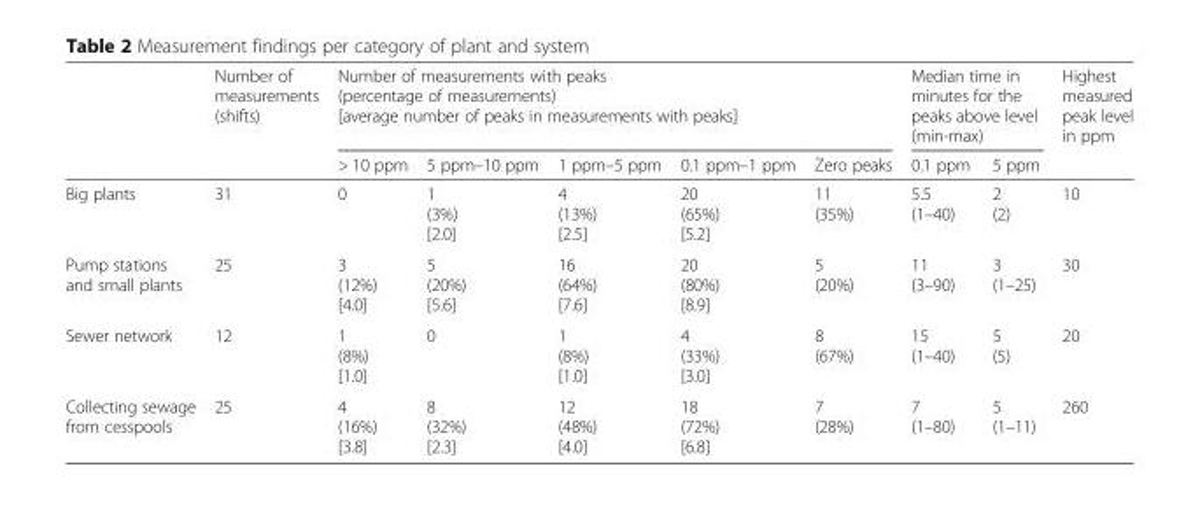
<table><thead><tr><td rowspan="2"></td><td rowspan="2">Number of measurements (shifts)</td><td colspan="5">Number of measurements with peaks (percentage of measurements) [average number of peaks in measurements with peaks]</td><td colspan="2">Median time in minutes for the peaks above level (min-max)</td><td rowspan="2">Highest measured peak level in ppm</td></tr><tr><td>&gt; 10 ppm</td><td>5 ppm–10 ppm</td><td>1 ppm–5 ppm</td><td>0.1 ppm–1 ppm</td><td>Zero peaks</td><td>0.1 ppm</td><td>5 ppm</td></tr></thead><tbody><tr><td>Big plants</td><td>31</td><td>0</td><td>1 (3%) [2.0]</td><td>4 (13%) [2.5]</td><td>20 (65%) [5.2]</td><td>11 (35%)</td><td>5.5 (1–40)</td><td>2 (2)</td><td>10</td></tr><tr><td>Pump stations and small plants</td><td>25</td><td>3 (12%) [4.0]</td><td>5 (20%) [5.6]</td><td>16 (64%) [7.6]</td><td>20 (80%) [8.9]</td><td>5 (20%)</td><td>11 (3–90)</td><td>3 (1–25)</td><td>30</td></tr><tr><td>Sewer network</td><td>12</td><td>1 (8%) [1.0]</td><td>0</td><td>1 (8%) [1.0]</td><td>4 (33%) [3.0]</td><td>8 (67%)</td><td>15 (1–40)</td><td>5 (5)</td><td>20</td></tr><tr><td>Collecting sewage from cesspools</td><td>25</td><td>4 (16%) [3.8]</td><td>8 (32%) [2.3]</td><td>12 (48%) [4.0]</td><td>18 (72%) [6.8]</td><td>7 (28%)</td><td>7 (1–80)</td><td>5 (1–11)</td><td>260</td></tr></tbody></table>